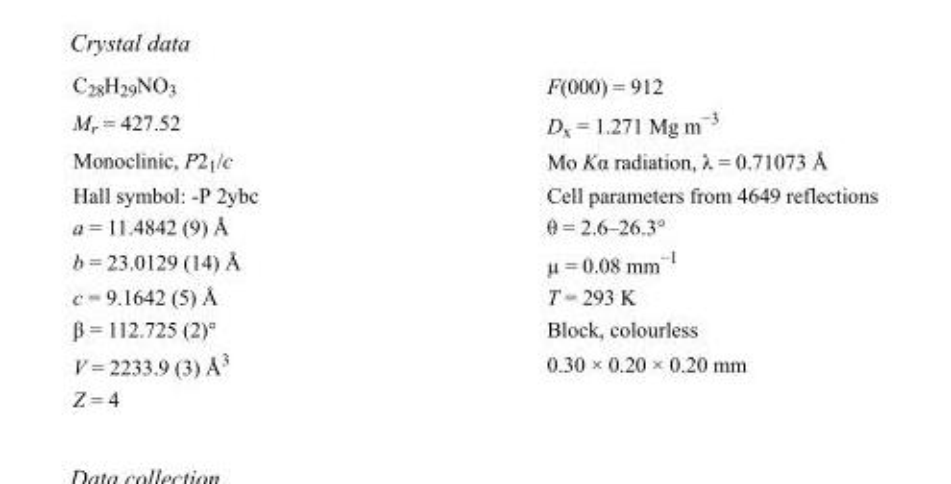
<table><tbody><tr><td>C<sub>28</sub>H<sub>29</sub>NO<sub>3</sub></td><td>F(000) = 912</td></tr><tr><td>M<sub>r</sub> = 427.52</td><td>D<sub>x</sub> = 1.271 Mg m<sup>−3</sup></td></tr><tr><td>Monoclinic, P2<sub>1</sub>/c</td><td>Mo Kα radiation, λ = 0.71073 Å</td></tr><tr><td>Hall symbol: -P 2ybc</td><td>Cell parameters from 4649 reflections</td></tr><tr><td>a = 11.4842 (9) Å</td><td>θ = 2.6–26.3°</td></tr><tr><td>b = 23.0129 (14) Å</td><td>µ = 0.08 mm<sup>−1</sup></td></tr><tr><td>c = 9.1642 (5) Å</td><td>T = 293 K</td></tr><tr><td>β = 112.725 (2)°</td><td>Block, colourless</td></tr><tr><td>V = 2233.9 (3) Å<sup>3</sup></td><td>0.30 × 0.20 × 0.20 mm</td></tr><tr><td>Z = 4</td><td></td></tr></tbody></table>